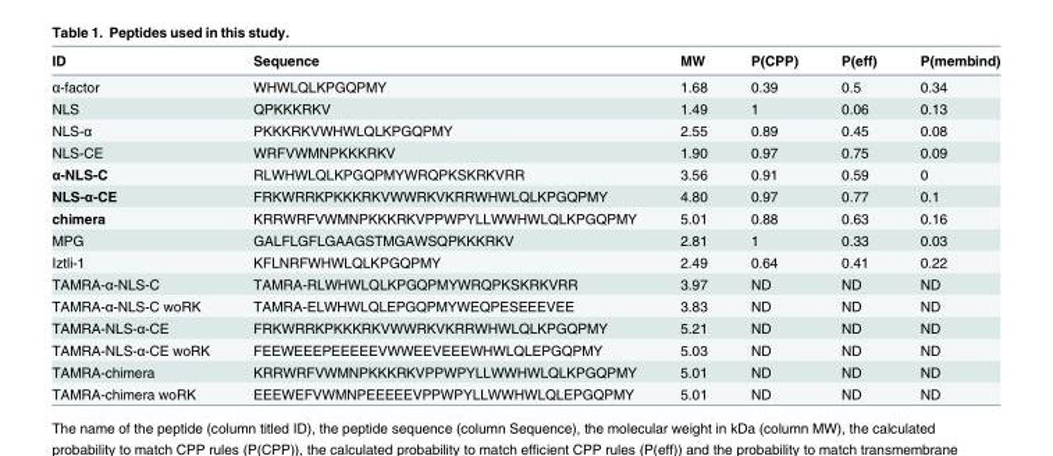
<table><thead><tr><td>ID</td><td>Sequence</td><td>MW</td><td>P(CPP)</td><td>P(eff)</td><td>P(membind)</td></tr></thead><tbody><tr><td>α-factor</td><td>WHWLQLKPGQPMY</td><td>1.68</td><td>0.39</td><td>0.5</td><td>0.34</td></tr><tr><td>NLS</td><td>QPKKKRKV</td><td>1.49</td><td>1</td><td>0.06</td><td>0.13</td></tr><tr><td>NLS-α</td><td>PKKKRKVWHWLQLKPGQPMY</td><td>2.55</td><td>0.89</td><td>0.45</td><td>0.08</td></tr><tr><td>NLS-CE</td><td>WRFVWMNPKKKRKV</td><td>1.90</td><td>0.97</td><td>0.75</td><td>0.09</td></tr><tr><td>α-NLS-C</td><td>RLWHWLQLKPGQPMYWRQPKSKRKVRR</td><td>3.56</td><td>0.91</td><td>0.59</td><td>0</td></tr><tr><td>NLS-α-CE</td><td>FRKWRRKPKKKRKVWWRKVKRRWHWLQLKPGQPMY</td><td>4.80</td><td>0.97</td><td>0.77</td><td>0.1</td></tr><tr><td>chimera</td><td>KRRWRFVWMNPKKKRKVPPWPYLLWWHWLQLKPGQPMY</td><td>5.01</td><td>0.88</td><td>0.63</td><td>0.16</td></tr><tr><td>MPG</td><td>GALFLGFLGAAGSTMGAWSQPKKKRKV</td><td>2.81</td><td>1</td><td>0.33</td><td>0.03</td></tr><tr><td>Iztli-1</td><td>KFLNRFWHWLQLKPGQPMY</td><td>2.49</td><td>0.64</td><td>0.41</td><td>0.22</td></tr><tr><td>TAMRA-α-NLS-C</td><td>TAMRA-RLWHWLQLKPGQPMYWRQPKSKRKVRR</td><td>3.97</td><td>ND</td><td>ND</td><td>ND</td></tr><tr><td>TAMRA-α-NLS-C woRK</td><td>TAMRA-ELWHWLQLEPGQPMYWEQPESEEEVEE</td><td>3.83</td><td>ND</td><td>ND</td><td>ND</td></tr><tr><td>TAMRA-NLS-α-CE</td><td>FRKWRRKPKKKRKVWWRKVKRRWHWLQLKPGQPMY</td><td>5.21</td><td>ND</td><td>ND</td><td>ND</td></tr><tr><td>TAMRA-NLS-α-CE woRK</td><td>FEEWEEEPEEEEEVWWEEVEEEWHWLQLEPGQPMY</td><td>5.03</td><td>ND</td><td>ND</td><td>ND</td></tr><tr><td>TAMRA-chimera</td><td>KRRWRFVWMNPKKKRKVPPWPYLLWWHWLQLKPGQPMY</td><td>5.01</td><td>ND</td><td>ND</td><td>ND</td></tr><tr><td>TAMRA-chimera woRK</td><td>EEEWEFVWMNPEEEEEVPPWPYLLWWHWLQLEPGQPMY</td><td>5.01</td><td>ND</td><td>ND</td><td>ND</td></tr></tbody></table>